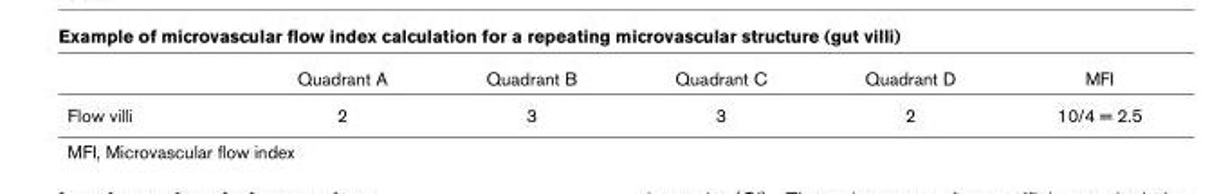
<table><thead><tr><td></td><td>Quadrant A</td><td>Quadrant B</td><td>Quadrant C</td><td>Quadrant D</td><td>MFI</td></tr></thead><tbody><tr><td>Flow villi</td><td>2</td><td>3</td><td>3</td><td>2</td><td>10/4 = 2.5</td></tr></tbody></table>